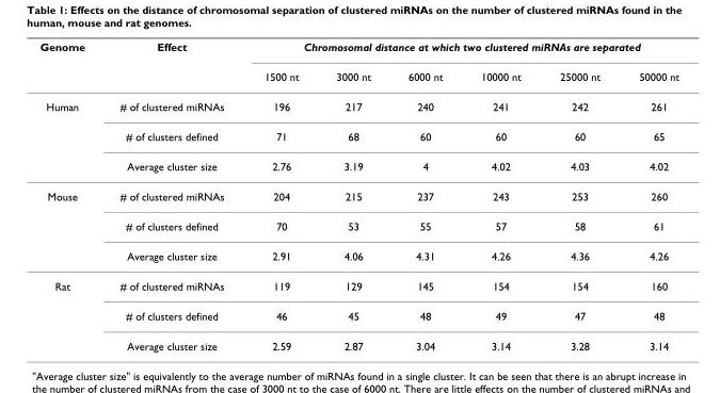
<table><thead><tr><td rowspan="2">Genome</td><td rowspan="2">Effect</td><td colspan="6">Chromosomal distance at which two clustered miRNAs are separated</td></tr><tr><td>1500 nt</td><td>3000 nt</td><td>6000 nt</td><td>10000 nt</td><td>25000 nt</td><td>50000 nt</td></tr></thead><tbody><tr><td rowspan="3">Human</td><td># of clustered miRNAs</td><td>196</td><td>217</td><td>240</td><td>241</td><td>242</td><td>261</td></tr><tr><td># of clusters defined</td><td>71</td><td>68</td><td>60</td><td>60</td><td>60</td><td>65</td></tr><tr><td>Average cluster size</td><td>2.76</td><td>3.19</td><td>4</td><td>4.02</td><td>4.03</td><td>4.02</td></tr><tr><td rowspan="3">Mouse</td><td># of clustered miRNAs</td><td>204</td><td>215</td><td>237</td><td>243</td><td>253</td><td>260</td></tr><tr><td># of clusters defined</td><td>70</td><td>53</td><td>55</td><td>57</td><td>58</td><td>61</td></tr><tr><td>Average cluster size</td><td>2.91</td><td>4.06</td><td>4.31</td><td>4.26</td><td>4.36</td><td>4.26</td></tr><tr><td rowspan="3">Rat</td><td># of clustered miRNAs</td><td>119</td><td>129</td><td>145</td><td>154</td><td>154</td><td>160</td></tr><tr><td># of clusters defined</td><td>46</td><td>45</td><td>48</td><td>49</td><td>47</td><td>48</td></tr><tr><td>Average cluster size</td><td>2.59</td><td>2.87</td><td>3.04</td><td>3.14</td><td>3.28</td><td>3.14</td></tr></tbody></table>